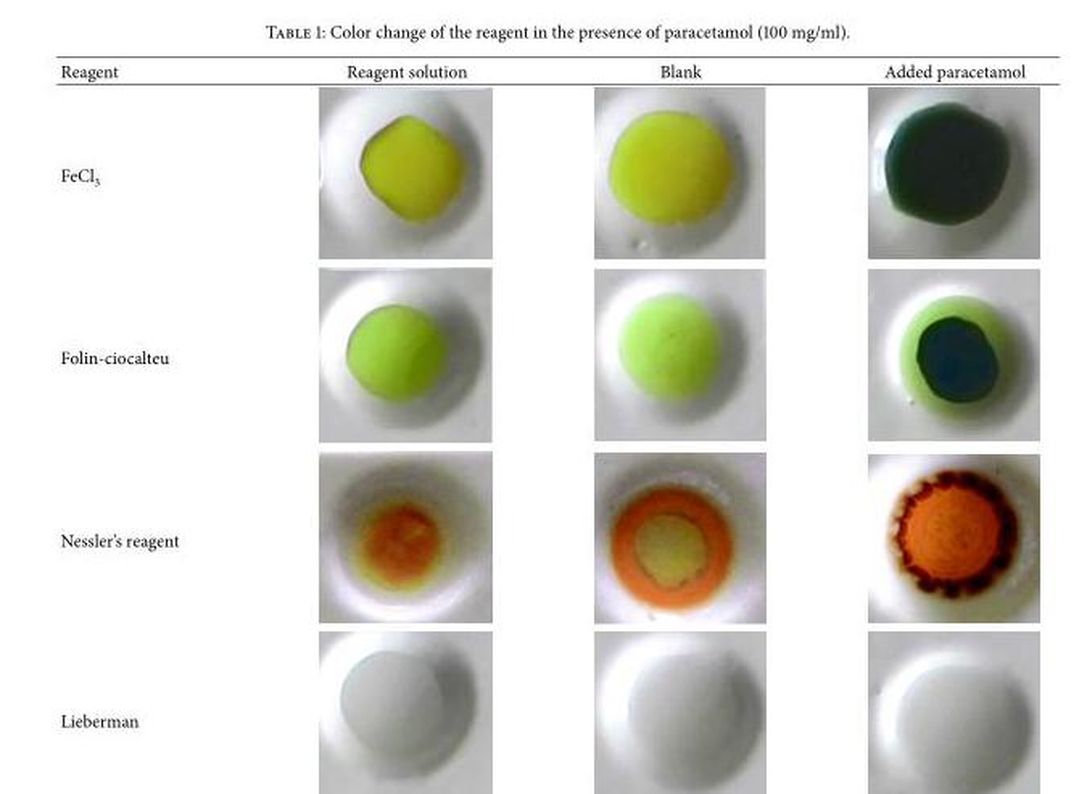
<table><thead><tr><td>Reagent</td><td>Reagent solution</td><td>Blank</td><td>Added paracetamol</td></tr></thead><tbody><tr><td colspan="4">FeCl<sub>3</sub></td></tr><tr><td colspan="4">Folin-ciocalteu</td></tr><tr><td colspan="4">Nessler’s reagent</td></tr><tr><td>Lieberman</td><td></td><td></td><td></td></tr></tbody></table>